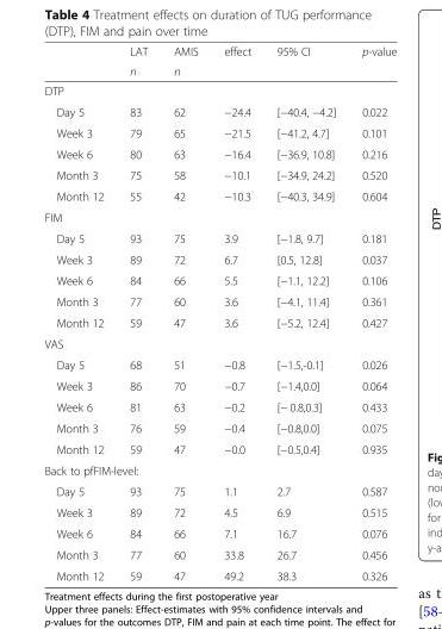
<table><thead><tr><td rowspan="2"></td><td rowspan="2">LAT n</td><td rowspan="2">AMIS n</td><td rowspan="2">effect</td><td rowspan="2">95% CI</td><td rowspan="2">p-value</td></tr><tr></tr></thead><tbody><tr><td colspan="6">DTP</td></tr><tr><td>Day 5</td><td>83</td><td>62</td><td>−24.4</td><td>[−40.4, −4.2]</td><td>0.022</td></tr><tr><td>Week 3</td><td>79</td><td>65</td><td>−21.5</td><td>[−41.2, 4.7]</td><td>0.101</td></tr><tr><td>Week 6</td><td>80</td><td>63</td><td>−16.4</td><td>[−36.9, 10.8]</td><td>0.216</td></tr><tr><td>Month 3</td><td>75</td><td>58</td><td>−10.1</td><td>[−34.9, 24.2]</td><td>0.520</td></tr><tr><td>Month 12</td><td>55</td><td>42</td><td>−10.3</td><td>[−40.3, 34.9]</td><td>0.604</td></tr><tr><td colspan="6">FIM</td></tr><tr><td>Day 5</td><td>93</td><td>75</td><td>3.9</td><td>[−1.8, 9.7]</td><td>0.181</td></tr><tr><td>Week 3</td><td>89</td><td>72</td><td>6.7</td><td>[0.5, 12.8]</td><td>0.037</td></tr><tr><td>Week 6</td><td>84</td><td>66</td><td>5.5</td><td>[−1.1, 12.2]</td><td>0.106</td></tr><tr><td>Month 3</td><td>77</td><td>60</td><td>3.6</td><td>[−4.1, 11.4]</td><td>0.361</td></tr><tr><td>Month 12</td><td>59</td><td>47</td><td>3.6</td><td>[−5.2, 12.4]</td><td>0.427</td></tr><tr><td colspan="6">VAS</td></tr><tr><td>Day 5</td><td>68</td><td>51</td><td>−0.8</td><td>[−1.5,-0.1]</td><td>0.026</td></tr><tr><td>Week 3</td><td>86</td><td>70</td><td>−0.7</td><td>[−1.4,0.0]</td><td>0.064</td></tr><tr><td>Week 6</td><td>81</td><td>63</td><td>−0.2</td><td>[− 0.8,0.3]</td><td>0.433</td></tr><tr><td>Month 3</td><td>76</td><td>59</td><td>−0.4</td><td>[−0.8,0.0]</td><td>0.075</td></tr><tr><td>Month 12</td><td>59</td><td>47</td><td>−0.0</td><td>[−0.5,0.4]</td><td>0.935</td></tr><tr><td colspan="6">Back to pfFIM-level:</td></tr><tr><td>Day 5</td><td>93</td><td>75</td><td>1.1</td><td>2.7</td><td>0.587</td></tr><tr><td>Week 3</td><td>89</td><td>72</td><td>4.5</td><td>6.9</td><td>0.515</td></tr><tr><td>Week 6</td><td>84</td><td>66</td><td>7.1</td><td>16.7</td><td>0.076</td></tr><tr><td>Month 3</td><td>77</td><td>60</td><td>33.8</td><td>26.7</td><td>0.456</td></tr><tr><td>Month 12</td><td>59</td><td>47</td><td>49.2</td><td>38.3</td><td>0.326</td></tr></tbody></table>